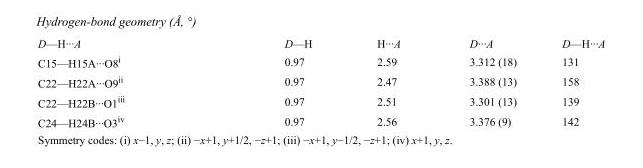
<table><tbody><tr><td>D—H···A</td><td>D—H</td><td>H···A</td><td>D···A</td><td>D—H···A</td></tr><tr><td>C15—H15A···O8<sup>i</sup></td><td>0.97</td><td>2.59</td><td>3.312 (18)</td><td>131</td></tr><tr><td>C22—H22A···O9<sup>ii</sup></td><td>0.97</td><td>2.47</td><td>3.388 (13)</td><td>158</td></tr><tr><td>C22—H22B···O1<sup>iii</sup></td><td>0.97</td><td>2.51</td><td>3.301 (13)</td><td>139</td></tr><tr><td>C24—H24B···O3<sup>iv</sup></td><td>0.97</td><td>2.56</td><td>3.376 (9)</td><td>142</td></tr></tbody></table>